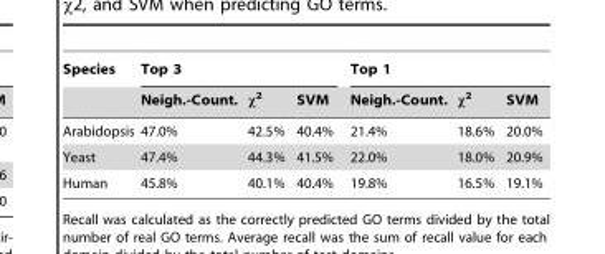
<table><thead><tr><td rowspan="2">Species</td><td colspan="3">Top 3</td><td colspan="3">Top 1</td></tr><tr><td>Neigh.-Count.</td><td>χ<sup>2</sup></td><td>SVM</td><td>Neigh.-Count.</td><td>χ<sup>2</sup></td><td>SVM</td></tr></thead><tbody><tr><td>Arabidopsis</td><td>47.0%</td><td>42.5%</td><td>40.4%</td><td>21.4%</td><td>18.6%</td><td>20.0%</td></tr><tr><td>Yeast</td><td>47.4%</td><td>44.3%</td><td>41.5%</td><td>22.0%</td><td>18.0%</td><td>20.9%</td></tr><tr><td>Human</td><td>45.8%</td><td>40.1%</td><td>40.4%</td><td>19.8%</td><td>16.5%</td><td>19.1%</td></tr></tbody></table>